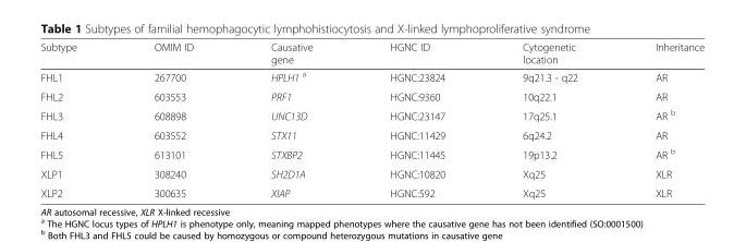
<table><thead><tr><td>Subtype</td><td>OMIM ID</td><td>Causative gene</td><td>HGNC ID</td><td>Cytogenetic location</td><td>Inheritance</td></tr></thead><tbody><tr><td>FHL1</td><td>267700</td><td>HPLH1 <sup>a</sup></td><td>HGNC:23824</td><td>9q21.3 - q22</td><td>AR</td></tr><tr><td>FHL2</td><td>603553</td><td>PRF1</td><td>HGNC:9360</td><td>10q22.1</td><td>AR</td></tr><tr><td>FHL3</td><td>608898</td><td>UNC13D</td><td>HGNC:23147</td><td>17q25.1</td><td>AR <sup>b</sup></td></tr><tr><td>FHL4</td><td>603552</td><td>STX11</td><td>HGNC:11429</td><td>6q24.2</td><td>AR</td></tr><tr><td>FHL5</td><td>613101</td><td>STXBP2</td><td>HGNC:11445</td><td>19p13.2</td><td>AR <sup>b</sup></td></tr><tr><td>XLP1</td><td>308240</td><td>SH2D1A</td><td>HGNC:10820</td><td>Xq25</td><td>XLR</td></tr><tr><td>XLP2</td><td>300635</td><td>XIAP</td><td>HGNC:592</td><td>Xq25</td><td>XLR</td></tr></tbody></table>